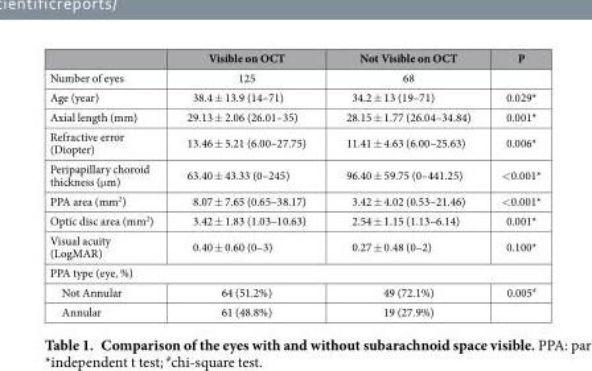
<table><thead><tr><td></td><td>Visible on OCT</td><td>Not Visible on OCT</td><td>Ρ</td></tr></thead><tbody><tr><td>Number of eyes</td><td>125</td><td>68</td><td></td></tr><tr><td>Age (year)</td><td>38.4 ± 13.9 (14–71)</td><td>34.2 ± 13 (19–71)</td><td>0.029*</td></tr><tr><td>Axial length (mm)</td><td>29.13 ± 2.06 (26.01–35)</td><td>28.15 ± 1.77 (26.04–34.84)</td><td>0.001*</td></tr><tr><td>Refractive error (Diopter)</td><td>13.46 ± 5.21 (6.00–27.75)</td><td>11.41 ± 4.63 (6.00–25.63)</td><td>0.006*</td></tr><tr><td>Peripapillary choroid thickness (μ m)</td><td>63.40 ± 43.33 (0–245)</td><td>96.40 ± 59.75 (0–441.25)</td><td>&lt; 0.001*</td></tr><tr><td>PPA area (mm<sup>2</sup>)</td><td>8.07 ± 7.65 (0.65–38.17)</td><td>3.42 ± 4.02 (0.53–21.46)</td><td>&lt; 0.001*</td></tr><tr><td>Optic disc area (mm<sup>2</sup>)</td><td>3.42 ± 1.83 (1.03–10.63)</td><td>2.54 ± 1.15 (1.13–6.14)</td><td>0.001*</td></tr><tr><td>Visual acuity (LogMAR)</td><td>0.40 ± 0.60 (0–3)</td><td>0.27 ± 0.48 (0–2)</td><td>0.100*</td></tr><tr><td colspan="4">PPA type (eye, %)</td></tr><tr><td>Not Annular</td><td>64 (51.2%)</td><td>49 (72.1%)</td><td>0.005<sup>#</sup></td></tr><tr><td>Annular</td><td>61 (48.8%)</td><td>19 (27.9%)</td><td></td></tr></tbody></table>